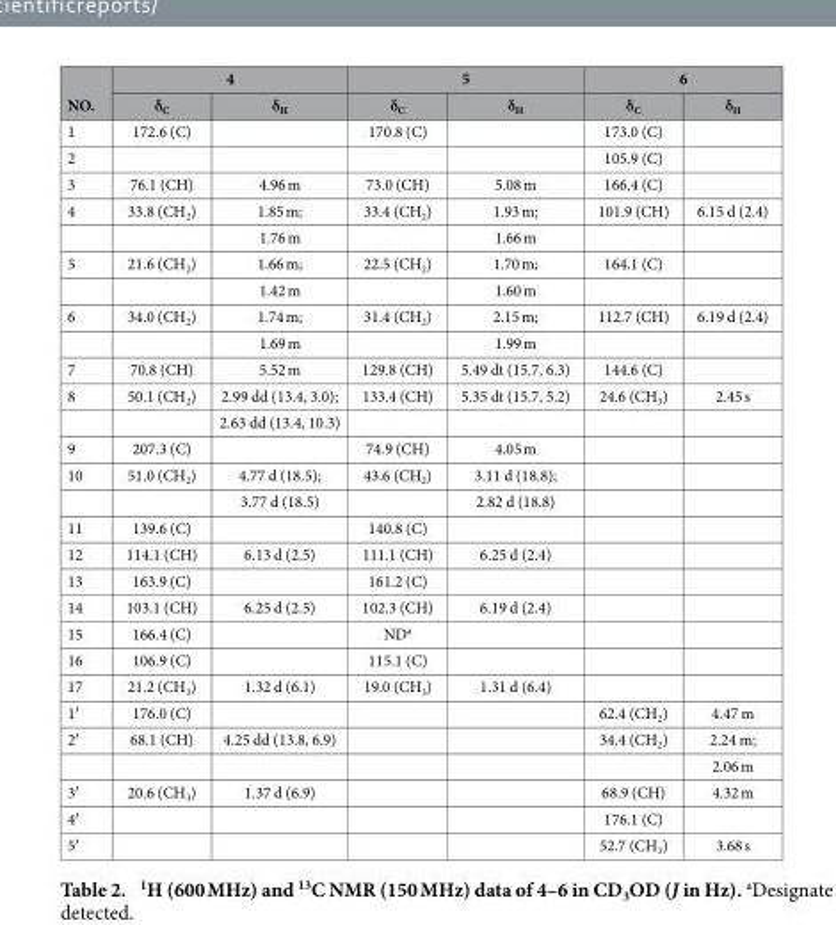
<table><thead><tr><td rowspan="2">NO.</td><td colspan="2">4</td><td colspan="2">5</td><td colspan="2">6</td></tr><tr><td>δ<sub>C</sub></td><td>δ<sub>H</sub></td><td>δ<sub>C</sub></td><td>δ<sub>H</sub></td><td>δ<sub>C</sub></td><td>δ<sub>H</sub></td></tr></thead><tbody><tr><td>1</td><td>172.6 (C)</td><td></td><td>170.8 (C)</td><td></td><td>173.0 (C)</td><td></td></tr><tr><td>2</td><td></td><td></td><td></td><td></td><td>105.9 (C)</td><td></td></tr><tr><td>3</td><td>76.1 (CH)</td><td>4.96 m</td><td>73.0 (CH)</td><td>5.08 m</td><td>166.4 (C)</td><td></td></tr><tr><td rowspan="2">4</td><td>33.8 (CH<sub>2</sub>)</td><td>1.85 m;</td><td>33.4 (CH<sub>2</sub>)</td><td>1.93 m;</td><td>101.9 (CH)</td><td>6.15 d (2.4)</td></tr><tr><td></td><td>1.76 m</td><td></td><td>1.66 m</td><td></td><td></td></tr><tr><td rowspan="2">5</td><td>21.6 (CH<sub>2</sub>)</td><td>1.66 m;</td><td>22.5 (CH<sub>2</sub>)</td><td>1.70 m;</td><td>164.1 (C)</td><td></td></tr><tr><td></td><td>1.42 m</td><td></td><td>1.60 m</td><td></td><td></td></tr><tr><td rowspan="2">6</td><td>34.0 (CH<sub>2</sub>)</td><td>1.74 m;</td><td>31.4 (CH<sub>2</sub>)</td><td>2.15 m;</td><td>112.7 (CH)</td><td>6.19 d (2.4)</td></tr><tr><td></td><td>1.69 m</td><td></td><td>1.99 m</td><td></td><td></td></tr><tr><td>7</td><td>70.8 (CH)</td><td>5.52 m</td><td>129.8 (CH)</td><td>5.49 dt (15.7, 6.3)</td><td>144.6 (C)</td><td></td></tr><tr><td rowspan="2">8</td><td>50.1 (CH<sub>2</sub>)</td><td>2.99 dd (13.4, 3.0);</td><td>133.4 (CH)</td><td>5.35 dt (15.7, 5.2)</td><td>24.6 (CH<sub>3</sub>)</td><td>2.45 s</td></tr><tr><td></td><td>2.63 dd (13.4, 10.3)</td><td></td><td></td><td></td><td></td></tr><tr><td>9</td><td>207.3 (C)</td><td></td><td>74.9 (CH)</td><td>4.05 m</td><td></td><td></td></tr><tr><td rowspan="2">10</td><td>51.0 (CH<sub>2</sub>)</td><td>4.77 d (18.5);</td><td>43.6 (CH<sub>2</sub>)</td><td>3.11 d (18.8);</td><td></td><td></td></tr><tr><td></td><td>3.77 d (18.5)</td><td></td><td>2.82 d (18.8)</td><td></td><td></td></tr><tr><td>11</td><td>139.6 (C)</td><td></td><td>140.8 (C)</td><td></td><td></td><td></td></tr><tr><td>12</td><td>114.1 (CH)</td><td>6.13 d (2.5)</td><td>111.1 (CH)</td><td>6.25 d (2.4)</td><td></td><td></td></tr><tr><td>13</td><td>163.9 (C)</td><td></td><td>161.2 (C)</td><td></td><td></td><td></td></tr><tr><td>14</td><td>103.1 (CH)</td><td>6.25 d (2.5)</td><td>102.3 (CH)</td><td>6.19 d (2.4)</td><td></td><td></td></tr><tr><td>15</td><td>166.4 (C)</td><td></td><td>ND<sup>a</sup></td><td></td><td></td><td></td></tr><tr><td>16</td><td>106.9 (C)</td><td></td><td>115.1 (C)</td><td></td><td></td><td></td></tr><tr><td>17</td><td>21.2 (CH<sub>3</sub>)</td><td>1.32 d (6.1)</td><td>19.0 (CH<sub>3</sub>)</td><td>1.31 d (6.4)</td><td></td><td></td></tr><tr><td>1′</td><td>176.0 (C)</td><td></td><td></td><td></td><td>62.4 (CH<sub>2</sub>)</td><td>4.47 m</td></tr><tr><td rowspan="2">2′</td><td>68.1 (CH)</td><td>4.25 dd (13.8, 6.9)</td><td></td><td></td><td>34.4 (CH<sub>2</sub>)</td><td>2.24 m;</td></tr><tr><td></td><td></td><td></td><td></td><td></td><td>2.06 m</td></tr><tr><td>3′</td><td>20.6 (CH<sub>3</sub>)</td><td>1.37 d (6.9)</td><td></td><td></td><td>68.9 (CH)</td><td>4.32 m</td></tr><tr><td>4′</td><td></td><td></td><td></td><td></td><td>176.1 (C)</td><td></td></tr><tr><td>5′</td><td></td><td></td><td></td><td></td><td>52.7 (CH<sub>3</sub>)</td><td>3.68 s</td></tr></tbody></table>